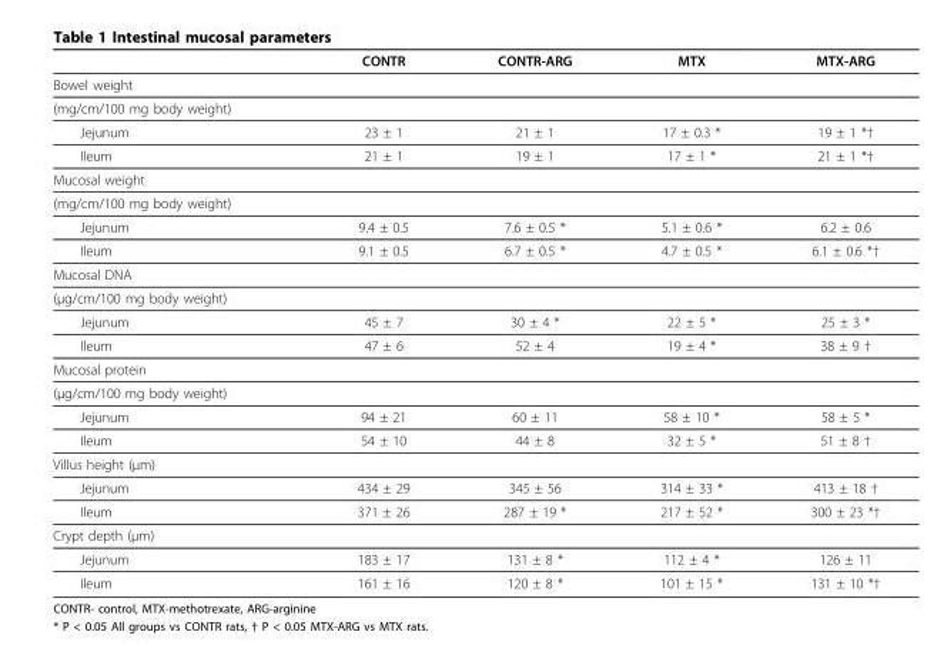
<table><thead><tr><td></td><td>CONTR</td><td>CONTR-ARG</td><td>MTX</td><td>MTX-ARG</td></tr></thead><tbody><tr><td colspan="5">Bowel weight</td></tr><tr><td colspan="5">(mg/cm/100 mg body weight)</td></tr><tr><td>Jejunum</td><td>23 ± 1</td><td>21 ± 1</td><td>17 ± 0.3 *</td><td>19 ± 1 *†</td></tr><tr><td>Ileum</td><td>21 ± 1</td><td>19 ± 1</td><td>17 ± 1 *</td><td>21 ± 1 *†</td></tr><tr><td colspan="5">Mucosal weight</td></tr><tr><td colspan="5">(mg/cm/100 mg body weight)</td></tr><tr><td>Jejunum</td><td>9.4 ± 0.5</td><td>7.6 ± 0.5 *</td><td>5.1 ± 0.6 *</td><td>6.2 ± 0.6</td></tr><tr><td>Ileum</td><td>9.1 ± 0.5</td><td>6.7 ± 0.5 *</td><td>4.7 ± 0.5 *</td><td>6.1 ± 0.6 *†</td></tr><tr><td colspan="5">Mucosal DNA</td></tr><tr><td colspan="5">(μg/cm/100 mg body weight)</td></tr><tr><td>Jejunum</td><td>45 ± 7</td><td>30 ± 4 *</td><td>22 ± 5 *</td><td>25 ± 3 *</td></tr><tr><td>Ileum</td><td>47 ± 6</td><td>52 ± 4</td><td>19 ± 4 *</td><td>38 ± 9 †</td></tr><tr><td colspan="5">Mucosal protein</td></tr><tr><td colspan="5">(μg/cm/100 mg body weight)</td></tr><tr><td>Jejunum</td><td>94 ± 21</td><td>60 ± 11</td><td>58 ± 10 *</td><td>58 ± 5 *</td></tr><tr><td>Ileum</td><td>54 ± 10</td><td>44 ± 8</td><td>32 ± 5 *</td><td>51 ± 8 †</td></tr><tr><td colspan="5">Villus height (μm)</td></tr><tr><td>Jejunum</td><td>434 ± 29</td><td>345 ± 56</td><td>314 ± 33 *</td><td>413 ± 18 †</td></tr><tr><td>Ileum</td><td>371 ± 26</td><td>287 ± 19 *</td><td>217 ± 52 *</td><td>300 ± 23 *†</td></tr><tr><td colspan="5">Crypt depth (μm)</td></tr><tr><td>Jejunum</td><td>183 ± 17</td><td>131 ± 8 *</td><td>112 ± 4 *</td><td>126 ± 11</td></tr><tr><td>Ileum</td><td>161 ± 16</td><td>120 ± 8 *</td><td>101 ± 15 *</td><td>131 ± 10 *†</td></tr></tbody></table>